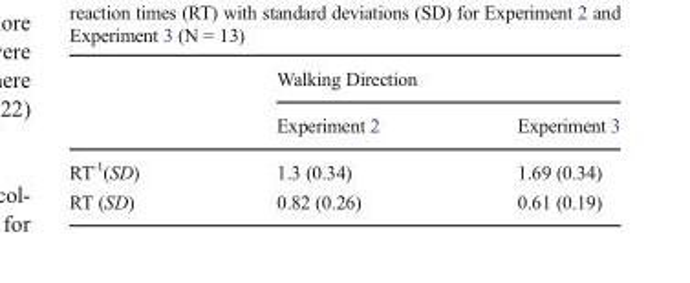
<table><thead><tr><td rowspan="2"></td><td colspan="2">Walking Direction</td></tr><tr><td>Experiment 2</td><td>Experiment 3</td></tr></thead><tbody><tr><td>RT<sup>-1</sup>(SD)</td><td>1.3 (0.34)</td><td>1.69 (0.34)</td></tr><tr><td>RT (SD)</td><td>0.82 (0.26)</td><td>0.61 (0.19)</td></tr></tbody></table>